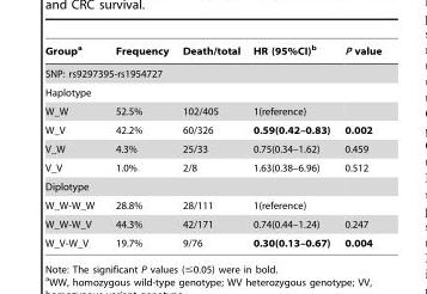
<table><thead><tr><td>Group<sup>a</sup></td><td>Frequency</td><td>Death/total</td><td>HR (95%CI)<sup>b</sup></td><td>P value</td></tr></thead><tbody><tr><td colspan="5">SNP: rs9297395-rs1954727</td></tr><tr><td colspan="5">Haplotype</td></tr><tr><td>W_W</td><td>52.5%</td><td>102/405</td><td>1(reference)</td><td></td></tr><tr><td>W_V</td><td>42.2%</td><td>60/326</td><td>0.59(0.42–0.83)</td><td>0.002</td></tr><tr><td>V_W</td><td>4.3%</td><td>25/33</td><td>0.75(0.34–1.62)</td><td>0.459</td></tr><tr><td>V_V</td><td>1.0%</td><td>2/8</td><td>1.63(0.38–6.96)</td><td>0.512</td></tr><tr><td colspan="5">Diplotype</td></tr><tr><td>W_W-W_W</td><td>28.8%</td><td>28/111</td><td>1(reference)</td><td></td></tr><tr><td>W_W-W_V</td><td>44.3%</td><td>42/171</td><td>0.74(0.44–1.24)</td><td>0.247</td></tr><tr><td>W_V-W_V</td><td>19.7%</td><td>9/76</td><td>0.30(0.13–0.67)</td><td>0.004</td></tr></tbody></table>